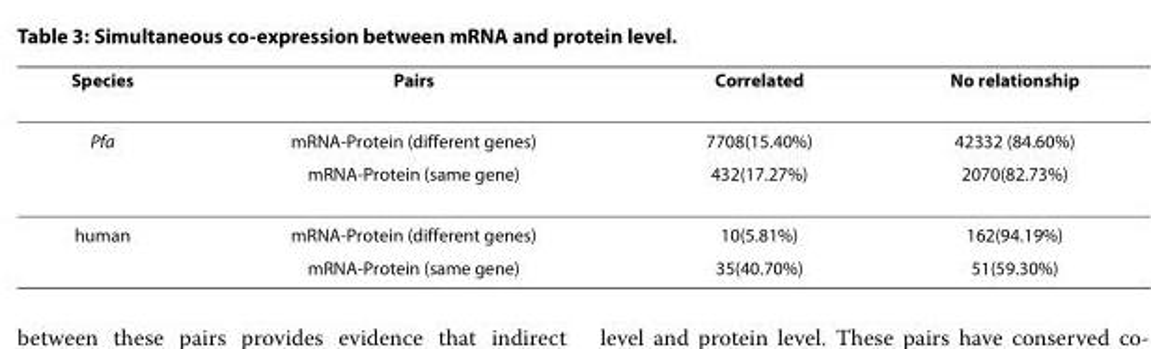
<table><thead><tr><td>Species</td><td>Pairs</td><td>Correlated</td><td>No relationship</td></tr></thead><tbody><tr><td rowspan="2">Pfa</td><td>mRNA-Protein (different genes)</td><td>7708(15.40%)</td><td>42332 (84.60%)</td></tr><tr><td>mRNA-Protein (same gene)</td><td>432(17.27%)</td><td>2070(82.73%)</td></tr><tr><td rowspan="2">human</td><td>mRNA-Protein (different genes)</td><td>10(5.81%)</td><td>162(94.19%)</td></tr><tr><td>mRNA-Protein (same gene)</td><td>35(40.70%)</td><td>51(59.30%)</td></tr></tbody></table>